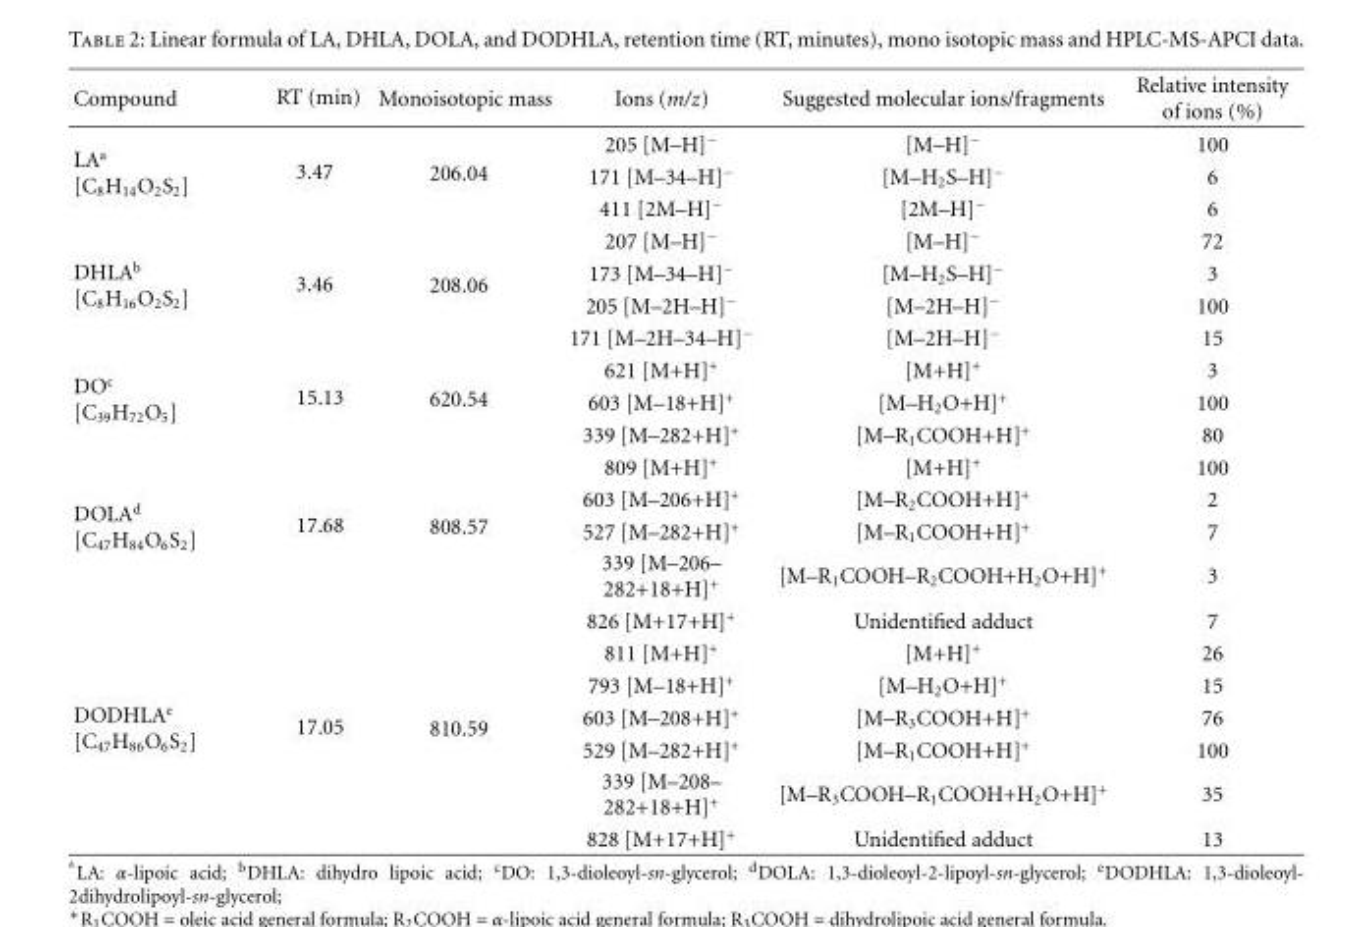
<table><thead><tr><td>Compound</td><td>RT (min)</td><td>Monoisotopic mass</td><td>Ions (m/z)</td><td>Suggested molecular ions/fragments</td><td>Relative intensity of ions (%)</td></tr></thead><tbody><tr><td rowspan="3">LA<sup>a</sup> [C<sub>8</sub>H<sub>14</sub>O<sub>2</sub>S<sub>2</sub>]</td><td rowspan="3">3.47</td><td rowspan="3">206.04</td><td>205 [M–H]<sup>−</sup></td><td>[M–H]<sup>−</sup></td><td>100</td></tr><tr><td>171 [M–34–H]<sup>−</sup></td><td>[M–H<sub>2</sub>S–H]<sup>−</sup></td><td>6</td></tr><tr><td>411 [2M–H]<sup>−</sup></td><td>[2M–H]<sup>−</sup></td><td>6</td></tr><tr><td rowspan="4">DHLA<sup>b</sup> [C<sub>8</sub>H<sub>16</sub>O<sub>2</sub>S<sub>2</sub>]</td><td rowspan="4">3.46</td><td rowspan="4">208.06</td><td>207 [M–H]<sup>−</sup></td><td>[M–H]<sup>−</sup></td><td>72</td></tr><tr><td>173 [M–34–H]<sup>−</sup></td><td>[M–H<sub>2</sub>S–H]<sup>−</sup></td><td>3</td></tr><tr><td>205 [M–2H–H]<sup>−</sup></td><td>[M–2H–H]<sup>−</sup></td><td>100</td></tr><tr><td>171 [M–2H–34–H]<sup>−</sup></td><td>[M–2H–H]<sup>−</sup></td><td>15</td></tr><tr><td rowspan="3">DO<sup>c</sup> [C<sub>39</sub>H<sub>72</sub>O<sub>5</sub>]</td><td rowspan="3">15.13</td><td rowspan="3">620.54</td><td>621 [M+H]<sup>+</sup></td><td>[M+H]<sup>+</sup></td><td>3</td></tr><tr><td>603 [M–18+H]<sup>+</sup></td><td>[M–H<sub>2</sub>O+H]<sup>+</sup></td><td>100</td></tr><tr><td>339 [M–282+H]<sup>+</sup></td><td>[M–R<sub>1</sub>COOH+H]<sup>+</sup></td><td>80</td></tr><tr><td rowspan="5">DOLA<sup>d</sup> [C<sub>47</sub>H<sub>84</sub>O<sub>6</sub>S<sub>2</sub>]</td><td rowspan="5">17.68</td><td rowspan="5">808.57</td><td>809 [M+H]<sup>+</sup></td><td>[M+H]<sup>+</sup></td><td>100</td></tr><tr><td>603 [M–206+H]<sup>+</sup></td><td>[M–R<sub>2</sub>COOH+H]<sup>+</sup></td><td>2</td></tr><tr><td>527 [M–282+H]<sup>+</sup></td><td>[M–R<sub>1</sub>COOH+H]<sup>+</sup></td><td>7</td></tr><tr><td>339 [M–206– 282+18+H]<sup>+</sup></td><td>[M–R<sub>1</sub>COOH–R<sub>2</sub>COOH+H<sub>2</sub>O+H]<sup>+</sup></td><td>3</td></tr><tr><td>826 [M+17+H]<sup>+</sup></td><td>Unidentified adduct</td><td>7</td></tr><tr><td rowspan="6">DODHLA<sup>e</sup> [C<sub>47</sub>H<sub>86</sub>O<sub>6</sub>S<sub>2</sub>]</td><td rowspan="6">17.05</td><td rowspan="6">810.59</td><td>811 [M+H]<sup>+</sup></td><td>[M+H]<sup>+</sup></td><td>26</td></tr><tr><td>793 [M–18+H]<sup>+</sup></td><td>[M–H<sub>2</sub>O+H]<sup>+</sup></td><td>15</td></tr><tr><td>603 [M–208+H]<sup>+</sup></td><td>[M–R<sub>3</sub>COOH+H]<sup>+</sup></td><td>76</td></tr><tr><td>529 [M–282+H]<sup>+</sup></td><td>[M–R<sub>1</sub>COOH+H]<sup>+</sup></td><td>100</td></tr><tr><td>339 [M–208– 282+18+H]<sup>+</sup></td><td>[M–R<sub>3</sub>COOH–R<sub>1</sub>COOH+H<sub>2</sub>O+H]<sup>+</sup></td><td>35</td></tr><tr><td>828 [M+17+H]<sup>+</sup></td><td>Unidentified adduct</td><td>13</td></tr></tbody></table>